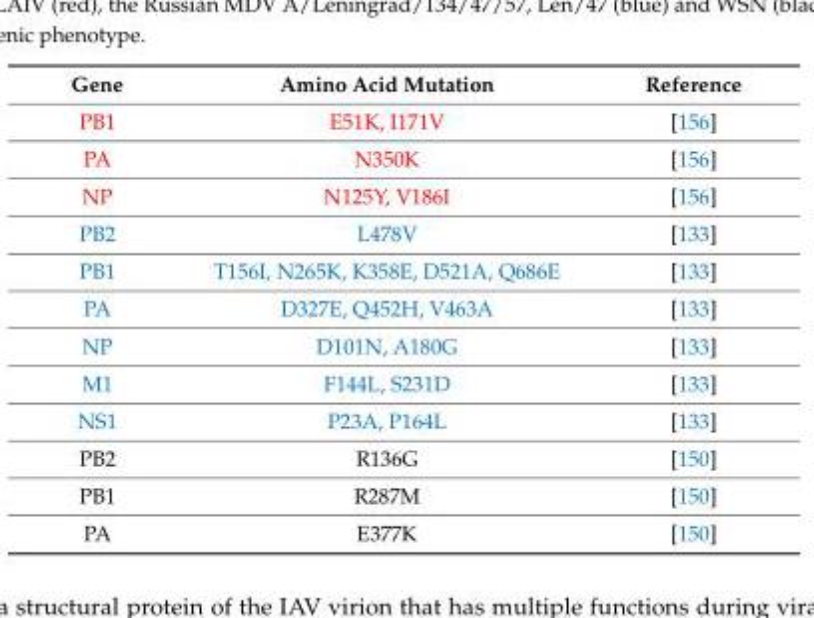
<table><thead><tr><td>Gene</td><td>Amino Acid Mutation</td><td>Reference</td></tr></thead><tbody><tr><td>PB1</td><td>E51K, I171V</td><td>[156]</td></tr><tr><td>PA</td><td>N350K</td><td>[156]</td></tr><tr><td>NP</td><td>N125Y, V186I</td><td>[156]</td></tr><tr><td>PB2</td><td>L478V</td><td>[133]</td></tr><tr><td>PB1</td><td>T156I, N265K, K358E, D521A, Q686E</td><td>[133]</td></tr><tr><td>PA</td><td>D327E, Q452H, V463A</td><td>[133]</td></tr><tr><td>NP</td><td>D101N, A180G</td><td>[133]</td></tr><tr><td>M1</td><td>F144L, S231D</td><td>[133]</td></tr><tr><td>NS1</td><td>P23A, P164L</td><td>[133]</td></tr><tr><td>PB2</td><td>R136G</td><td>[150]</td></tr><tr><td>PB1</td><td>R287M</td><td>[150]</td></tr><tr><td>PA</td><td>E377K</td><td>[150]</td></tr></tbody></table>